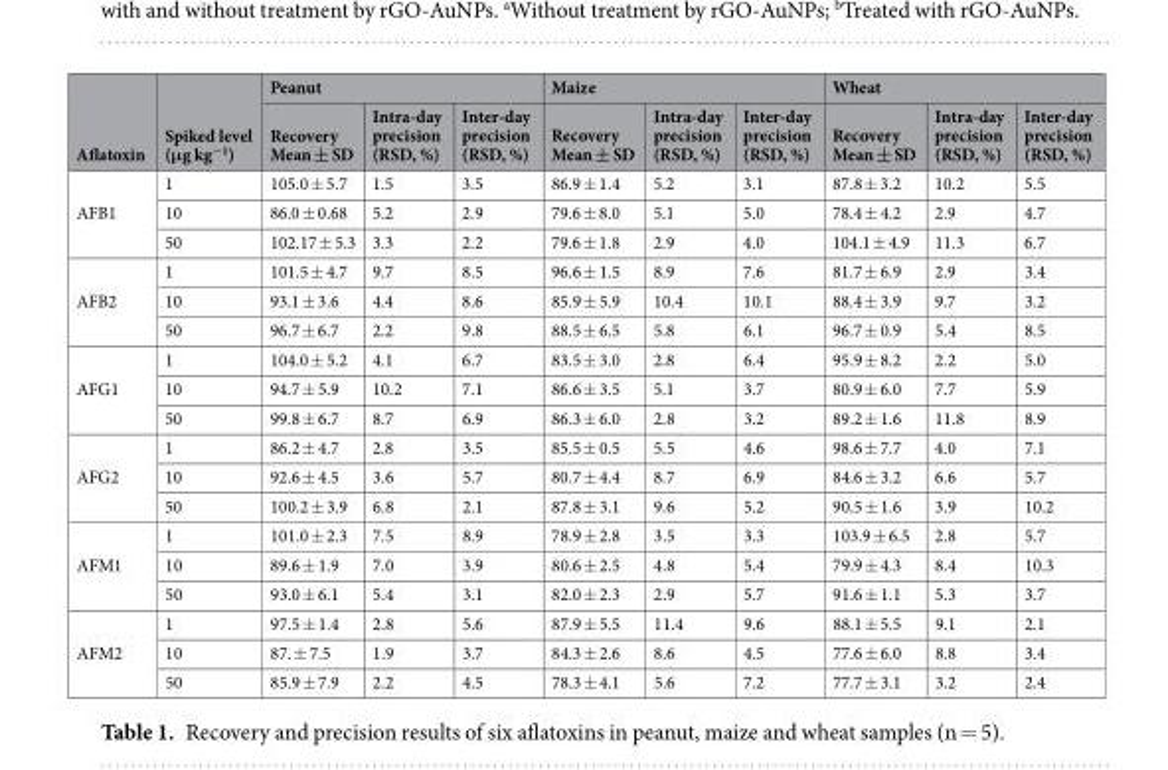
<table><thead><tr><td rowspan="2">Aflatoxin</td><td rowspan="2">Spiked level (μg kg<sup>−1</sup>)</td><td colspan="3">Peanut</td><td colspan="3">Maize</td><td colspan="3">Wheat</td></tr><tr><td>Recovery Mean ± SD</td><td>Intra-day precision (RSD, %)</td><td>Inter-day precision (RSD, %)</td><td>Recovery Mean ± SD</td><td>Intra-day precision (RSD, %)</td><td>Inter-day precision (RSD, %)</td><td>Recovery Mean ± SD</td><td>Intra-day precision (RSD, %)</td><td>Inter-day precision (RSD, %)</td></tr></thead><tbody><tr><td rowspan="3">AFB1</td><td>1</td><td>105.0 ± 5.7</td><td>1.5</td><td>3.5</td><td>86.9 ± 1.4</td><td>5.2</td><td>3.1</td><td>87.8 ± 3.2</td><td>10.2</td><td>5.5</td></tr><tr><td>10</td><td>86.0 ± 0.68</td><td>5.2</td><td>2.9</td><td>79.6 ± 8.0</td><td>5.1</td><td>5.0</td><td>78.4 ± 4.2</td><td>2.9</td><td>4.7</td></tr><tr><td>50</td><td>102.17 ± 5.3</td><td>3.3</td><td>2.2</td><td>79.6 ± 1.8</td><td>2.9</td><td>4.0</td><td>104.1 ± 4.9</td><td>11.3</td><td>6.7</td></tr><tr><td rowspan="3">AFB2</td><td>1</td><td>101.5 ± 4.7</td><td>9.7</td><td>8.5</td><td>96.6 ± 1.5</td><td>8.9</td><td>7.6</td><td>81.7 ± 6.9</td><td>2.9</td><td>3.4</td></tr><tr><td>10</td><td>93.1 ± 3.6</td><td>4.4</td><td>8.6</td><td>85.9 ± 5.9</td><td>10.4</td><td>10.1</td><td>88.4 ± 3.9</td><td>9.7</td><td>3.2</td></tr><tr><td>50</td><td>96.7 ± 6.7</td><td>2.2</td><td>9.8</td><td>88.5 ± 6.5</td><td>5.8</td><td>6.1</td><td>96.7 ± 0.9</td><td>5.4</td><td>8.5</td></tr><tr><td rowspan="3">AFG1</td><td>1</td><td>104.0 ± 5.2</td><td>4.1</td><td>6.7</td><td>83.5 ± 3.0</td><td>2.8</td><td>6.4</td><td>95.9 ± 8.2</td><td>2.2</td><td>5.0</td></tr><tr><td>10</td><td>94.7 ± 5.9</td><td>10.2</td><td>7.1</td><td>86.6 ± 3.5</td><td>5.1</td><td>3.7</td><td>80.9 ± 6.0</td><td>7.7</td><td>5.9</td></tr><tr><td>50</td><td>99.8 ± 6.7</td><td>8.7</td><td>6.9</td><td>86.3 ± 6.0</td><td>2.8</td><td>3.2</td><td>89.2 ± 1.6</td><td>11.8</td><td>8.9</td></tr><tr><td rowspan="3">AFG2</td><td>1</td><td>86.2 ± 4.7</td><td>2.8</td><td>3.5</td><td>85.5 ± 0.5</td><td>5.5</td><td>4.6</td><td>98.6 ± 7.7</td><td>4.0</td><td>7.1</td></tr><tr><td>10</td><td>92.6 ± 4.5</td><td>3.6</td><td>5.7</td><td>80.7 ± 4.4</td><td>8.7</td><td>6.9</td><td>84.6 ± 3.2</td><td>6.6</td><td>5.7</td></tr><tr><td>50</td><td>100.2 ± 3.9</td><td>6.8</td><td>2.1</td><td>87.8 ± 3.1</td><td>9.6</td><td>5.2</td><td>90.5 ± 1.6</td><td>3.9</td><td>10.2</td></tr><tr><td rowspan="3">AFM1</td><td>1</td><td>101.0 ± 2.3</td><td>7.5</td><td>8.9</td><td>78.9 ± 2.8</td><td>3.5</td><td>3.3</td><td>103.9 ± 6.5</td><td>2.8</td><td>5.7</td></tr><tr><td>10</td><td>89.6 ± 1.9</td><td>7.0</td><td>3.9</td><td>80.6 ± 2.5</td><td>4.8</td><td>5.4</td><td>79.9 ± 4.3</td><td>8.4</td><td>10.3</td></tr><tr><td>50</td><td>93.0 ± 6.1</td><td>5.4</td><td>3.1</td><td>82.0 ± 2.3</td><td>2.9</td><td>5.7</td><td>91.6 ± 1.1</td><td>5.3</td><td>3.7</td></tr><tr><td rowspan="3">AFM2</td><td>1</td><td>97.5 ± 1.4</td><td>2.8</td><td>5.6</td><td>87.9 ± 5.5</td><td>11.4</td><td>9.6</td><td>88.1 ± 5.5</td><td>9.1</td><td>2.1</td></tr><tr><td>10</td><td>87. ± 7.5</td><td>1.9</td><td>3.7</td><td>84.3 ± 2.6</td><td>8.6</td><td>4.5</td><td>77.6 ± 6.0</td><td>8.8</td><td>3.4</td></tr><tr><td>50</td><td>85.9 ± 7.9</td><td>2.2</td><td>4.5</td><td>78.3 ± 4.1</td><td>5.6</td><td>7.2</td><td>77.7 ± 3.1</td><td>3.2</td><td>2.4</td></tr></tbody></table>